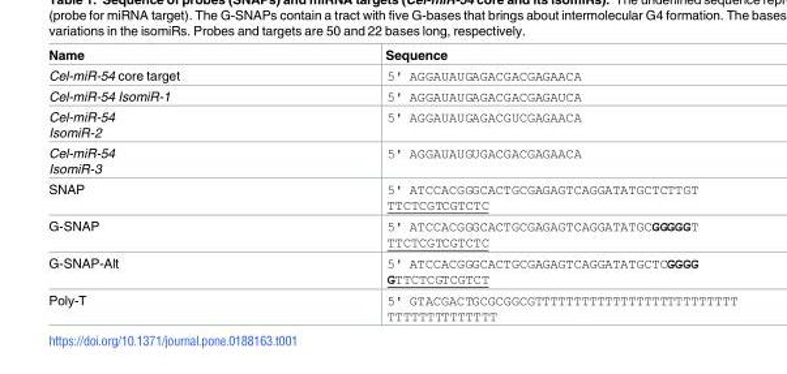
<table><thead><tr><td>Name</td><td>Sequence</td></tr></thead><tbody><tr><td>Cel-miR-54 core target</td><td>5&#x27; AGGAUAUGAGACGACGAGAACA</td></tr><tr><td>Cel-miR-54 IsomiR-1</td><td>5&#x27; AGGAUAUGAGACGACGAGAUCA</td></tr><tr><td>Cel-miR-54 IsomiR-2</td><td>5&#x27; AGGAUAUGAGACGUCGAGAACA</td></tr><tr><td>Cel-miR-54 IsomiR-3</td><td>5&#x27; AGGAUAUGUGACGACGAGAACA</td></tr><tr><td>SNAP</td><td>5&#x27; ATCCACGGGCACTGCGAGAGTCAGGATATGCTCTTGT TTCTCGTCGTCTC</td></tr><tr><td>G-SNAP</td><td>5&#x27; ATCCACGGGCACTGCGAGAGTCAGGATATGCGGGGGT TTCTCGTCGTCTC</td></tr><tr><td>G-SNAP-Alt</td><td>5&#x27; ATCCACGGGCACTGCGAGAGTCAGGATATGCTCGGGG GTTCTCGTCGTCT</td></tr><tr><td>Poly-T</td><td>5&#x27; GTACGACTGCGCGGCGTTTTTTTTTTTTTTTTTTTTTTTTTT TTTTTTTTTTTTTT</td></tr></tbody></table>